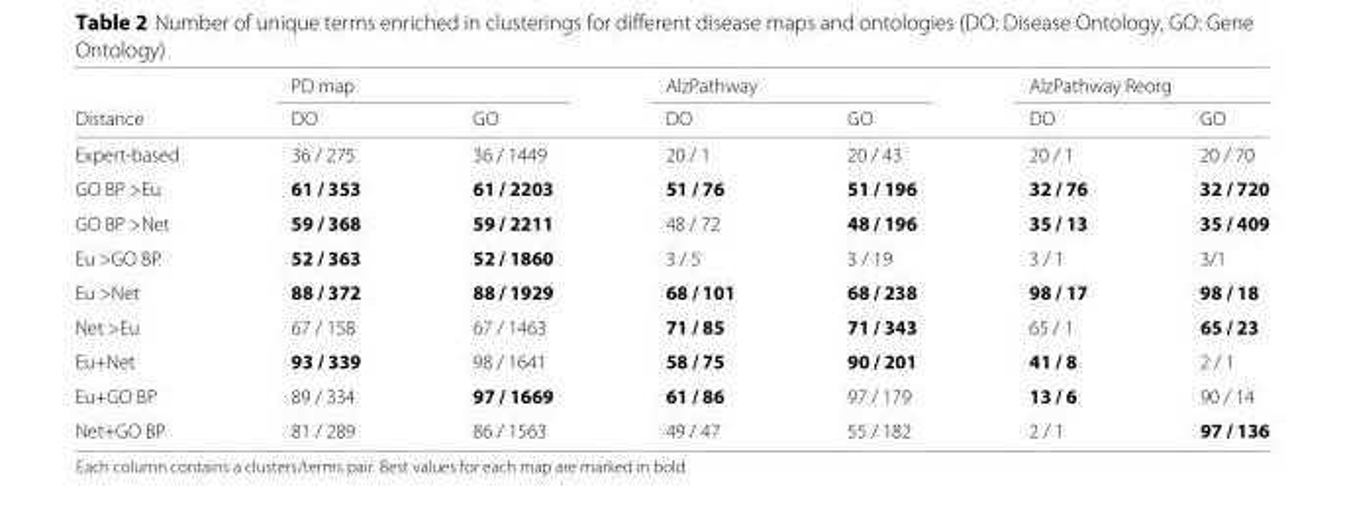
<table><thead><tr><td rowspan="2">Distance</td><td colspan="2">PD map</td><td colspan="2">AlzPathway</td><td colspan="2">AlzPathway Reorg</td></tr><tr><td>DO</td><td>GO</td><td>DO</td><td>GO</td><td>DO</td><td>GO</td></tr></thead><tbody><tr><td>Expert-based</td><td>36 / 275</td><td>36 / 1449</td><td>20 / 1</td><td>20 / 43</td><td>20 / 1</td><td>20 / 70</td></tr><tr><td>GO BP &gt;Eu</td><td>61 / 353</td><td>61 / 2203</td><td>51 / 76</td><td>51 / 196</td><td>32 / 76</td><td>32 / 720</td></tr><tr><td>GO BP &gt;Net</td><td>59 / 368</td><td>59 / 2211</td><td>48 / 72</td><td>48 / 196</td><td>35 / 13</td><td>35 / 409</td></tr><tr><td>Eu &gt;GO BP</td><td>52 / 363</td><td>52 / 1860</td><td>3 / 5</td><td>3 / 19</td><td>3 / 1</td><td>3/1</td></tr><tr><td>Eu &gt;Net</td><td>88 / 372</td><td>88 / 1929</td><td>68 / 101</td><td>68 / 238</td><td>98 / 17</td><td>98 / 18</td></tr><tr><td>Net &gt;Eu</td><td>67 / 158</td><td>67 / 1463</td><td>71 / 85</td><td>71 / 343</td><td>65 / 1</td><td>65 / 23</td></tr><tr><td>Eu+Net</td><td>93 / 339</td><td>98 / 1641</td><td>58 / 75</td><td>90 / 201</td><td>41 / 8</td><td>2 / 1</td></tr><tr><td>Eu+GO BP</td><td>89 / 334</td><td>97 / 1669</td><td>61 / 86</td><td>97 / 179</td><td>13 / 6</td><td>90 / 14</td></tr><tr><td>Net+GO BP</td><td>81 / 289</td><td>86 / 1563</td><td>49 / 47</td><td>55 / 182</td><td>2 / 1</td><td>97 / 136</td></tr></tbody></table>